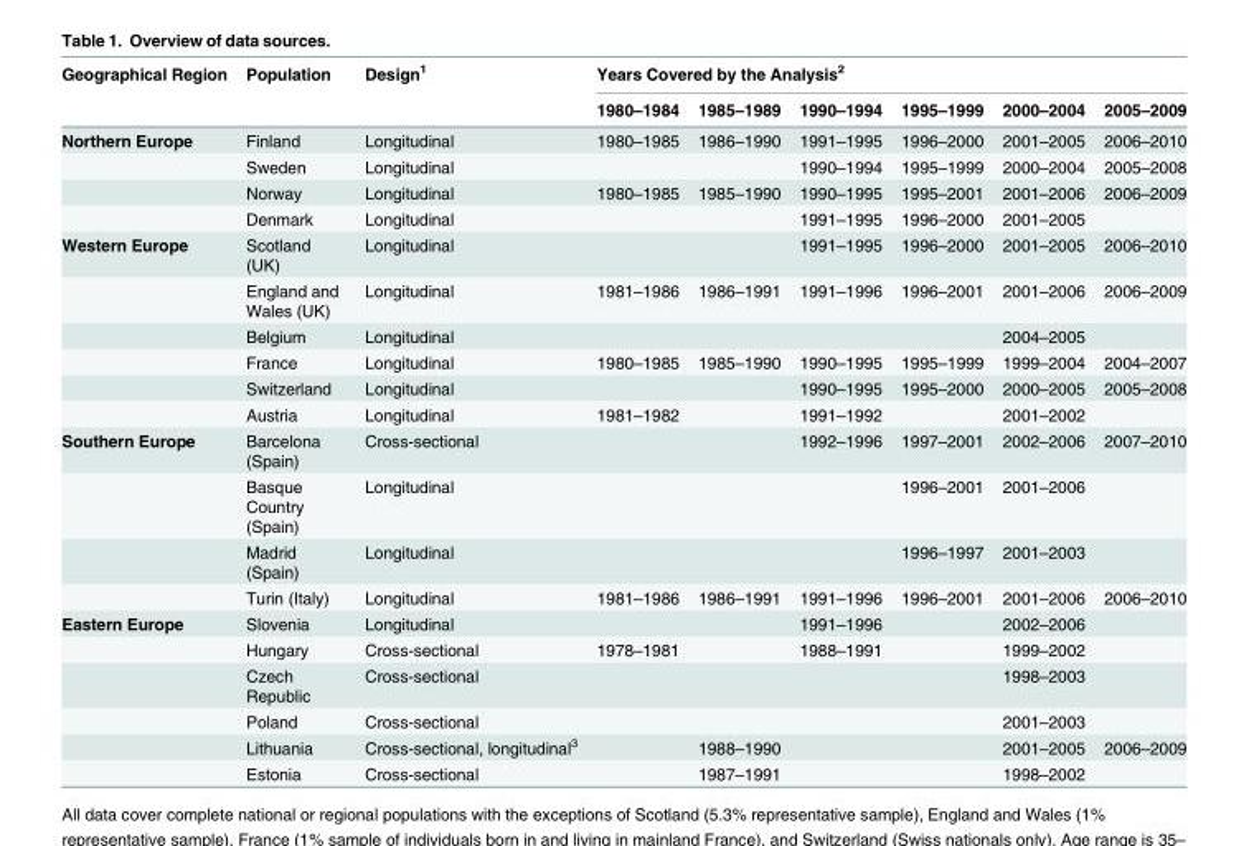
<table><thead><tr><td rowspan="2">Geographical Region</td><td rowspan="2">Population</td><td rowspan="2">Design<sup>1</sup></td><td colspan="6">Years Covered by the Analysis<sup>2</sup></td></tr><tr><td>1980–1984</td><td>1985–1989</td><td>1990–1994</td><td>1995–1999</td><td>2000–2004</td><td>2005–2009</td></tr></thead><tbody><tr><td rowspan="4">Northern Europe</td><td>Finland</td><td>Longitudinal</td><td>1980–1985</td><td>1986–1990</td><td>1991–1995</td><td>1996–2000</td><td>2001–2005</td><td>2006–2010</td></tr><tr><td>Sweden</td><td>Longitudinal</td><td></td><td></td><td>1990–1994</td><td>1995–1999</td><td>2000–2004</td><td>2005–2008</td></tr><tr><td>Norway</td><td>Longitudinal</td><td>1980–1985</td><td>1985–1990</td><td>1990–1995</td><td>1995–2001</td><td>2001–2006</td><td>2006–2009</td></tr><tr><td>Denmark</td><td>Longitudinal</td><td></td><td></td><td>1991–1995</td><td>1996–2000</td><td>2001–2005</td><td></td></tr><tr><td rowspan="6">Western Europe</td><td>Scotland (UK)</td><td>Longitudinal</td><td></td><td></td><td>1991–1995</td><td>1996–2000</td><td>2001–2005</td><td>2006–2010</td></tr><tr><td>England and Wales (UK)</td><td>Longitudinal</td><td>1981–1986</td><td>1986–1991</td><td>1991–1996</td><td>1996–2001</td><td>2001–2006</td><td>2006–2009</td></tr><tr><td>Belgium</td><td>Longitudinal</td><td></td><td></td><td></td><td></td><td>2004–2005</td><td></td></tr><tr><td>France</td><td>Longitudinal</td><td>1980–1985</td><td>1985–1990</td><td>1990–1995</td><td>1995–1999</td><td>1999–2004</td><td>2004–2007</td></tr><tr><td>Switzerland</td><td>Longitudinal</td><td></td><td></td><td>1990–1995</td><td>1995–2000</td><td>2000–2005</td><td>2005–2008</td></tr><tr><td>Austria</td><td>Longitudinal</td><td>1981–1982</td><td></td><td>1991–1992</td><td></td><td>2001–2002</td><td></td></tr><tr><td rowspan="4">Southern Europe</td><td>Barcelona (Spain)</td><td>Cross-sectional</td><td></td><td></td><td>1992–1996</td><td>1997–2001</td><td>2002–2006</td><td>2007–2010</td></tr><tr><td>Basque Country (Spain)</td><td>Longitudinal</td><td></td><td></td><td></td><td>1996–2001</td><td>2001–2006</td><td></td></tr><tr><td>Madrid (Spain)</td><td>Longitudinal</td><td></td><td></td><td></td><td>1996–1997</td><td>2001–2003</td><td></td></tr><tr><td>Turin (Italy)</td><td>Longitudinal</td><td>1981–1986</td><td>1986–1991</td><td>1991–1996</td><td>1996–2001</td><td>2001–2006</td><td>2006–2010</td></tr><tr><td rowspan="6">Eastern Europe</td><td>Slovenia</td><td>Longitudinal</td><td></td><td></td><td>1991–1996</td><td></td><td>2002–2006</td><td></td></tr><tr><td>Hungary</td><td>Cross-sectional</td><td>1978–1981</td><td></td><td>1988–1991</td><td></td><td>1999–2002</td><td></td></tr><tr><td>Czech Republic</td><td>Cross-sectional</td><td></td><td></td><td></td><td></td><td>1998–2003</td><td></td></tr><tr><td>Poland</td><td>Cross-sectional</td><td></td><td></td><td></td><td></td><td>2001–2003</td><td></td></tr><tr><td>Lithuania</td><td>Cross-sectional, longitudinal<sup>3</sup></td><td></td><td>1988–1990</td><td></td><td></td><td>2001–2005</td><td>2006–2009</td></tr><tr><td>Estonia</td><td>Cross-sectional</td><td></td><td>1987–1991</td><td></td><td></td><td>1998–2002</td><td></td></tr></tbody></table>